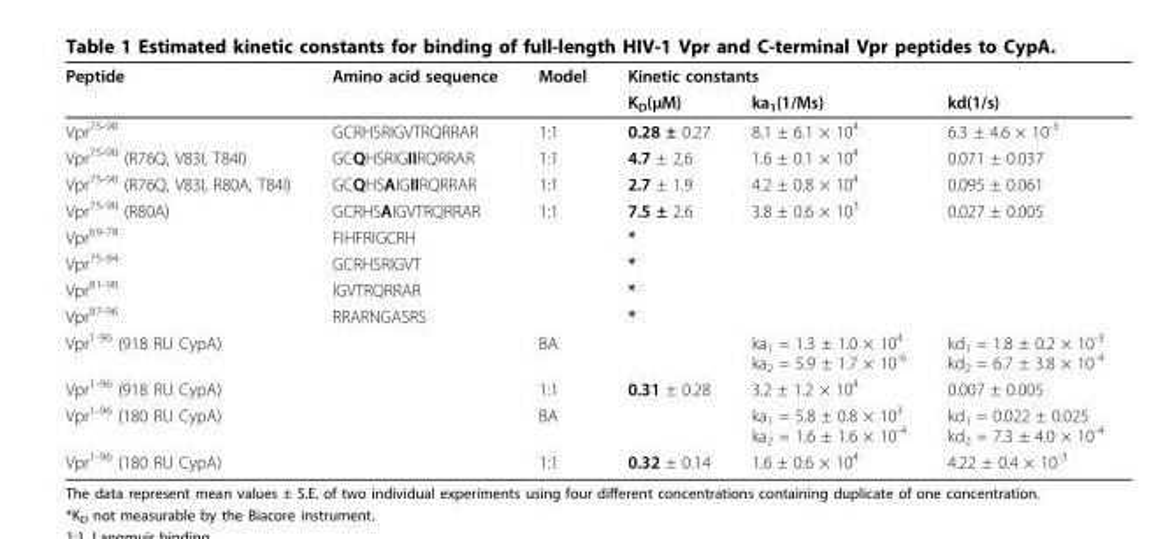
<table><thead><tr><td rowspan="2">Peptide</td><td rowspan="2">Amino acid sequence</td><td rowspan="2">Model</td><td colspan="3">Kinetic constants</td></tr><tr><td>K<sub>D</sub>(μM)</td><td>ka<sub>1</sub>(1/Ms)</td><td>kd(1/s)</td></tr></thead><tbody><tr><td>Vpr<sup>75-90</sup></td><td>GCRHSRIGVTRQRRAR</td><td>1:1</td><td>0.28 ± 0.27</td><td>8.1 ± 6.1 × 10<sup>4</sup></td><td>6.3 ± 4.6 × 10<sup>-3</sup></td></tr><tr><td>Vpr<sup>75-90</sup> (R76Q, V83I, T84I)</td><td>GCQHSRIGIIRQRRAR</td><td>1:1</td><td>4.7 ± 2.6</td><td>1.6 ± 0.1 × 10<sup>4</sup></td><td>0.071 ± 0.037</td></tr><tr><td>Vpr<sup>75-90</sup> (R76Q, V83I, R80A, T84I)</td><td>GCQHSAIGIIRQRRAR</td><td>1:1</td><td>2.7 ± 1.9</td><td>4.2 ± 0.8 × 10<sup>4</sup></td><td>0.095 ± 0.061</td></tr><tr><td>Vpr<sup>75-90</sup> (R80A)</td><td>GCRHSAIGVTRQRRAR</td><td>1:1</td><td>7.5 ± 2.6</td><td>3.8 ± 0.6 × 10<sup>3</sup></td><td>0.027 ± 0.005</td></tr><tr><td>Vpr<sup>69-78</sup></td><td>FIHFRIGCRH</td><td></td><td>*</td><td></td><td></td></tr><tr><td>Vpr<sup>75-84</sup></td><td>GCRHSRIGVT</td><td></td><td>*</td><td></td><td></td></tr><tr><td>Vpr<sup>81-90</sup></td><td>IGVTRQRRAR</td><td></td><td>*</td><td></td><td></td></tr><tr><td>Vpr<sup>87-96</sup></td><td>RRARNGASRS</td><td></td><td>*</td><td></td><td></td></tr><tr><td>Vpr<sup>1-96</sup> (918 RU CypA)</td><td></td><td>BA</td><td></td><td>ka<sub>1</sub> = 1.3 ± 1.0 × 10<sup>4</sup> ka<sub>2</sub> = 5.9 ± 1.7 × 10<sup>-6</sup></td><td>kd<sub>1</sub> = 1.8 ± 0.2 × 10<sup>-3</sup> kd<sub>2</sub> = 6.7 ± 3.8 × 10<sup>-4</sup></td></tr><tr><td>Vpr<sup>1-96</sup> (918 RU CypA)</td><td></td><td>1:1</td><td>0.31 ± 0.28</td><td>3.2 ± 1.2 × 10<sup>4</sup></td><td>0.007 ± 0.005</td></tr><tr><td>Vpr<sup>1-96</sup> (180 RU CypA)</td><td></td><td>BA</td><td></td><td>ka<sub>1</sub> = 5.8 ± 0.8 × 10<sup>3</sup> ka<sub>2</sub> = 1.6 ± 1.6 × 10<sup>-4</sup></td><td>kd<sub>1</sub> = 0.022 ± 0.025 kd<sub>2</sub> = 7.3 ± 4.0 × 10<sup>-4</sup></td></tr><tr><td>Vpr<sup>1-96</sup> (180 RU CypA)</td><td></td><td>1:1</td><td>0.32 ± 0.14</td><td>1.6 ± 0.6 × 10<sup>4</sup></td><td>4.22 ± 0.4 × 10<sup>-3</sup></td></tr></tbody></table>